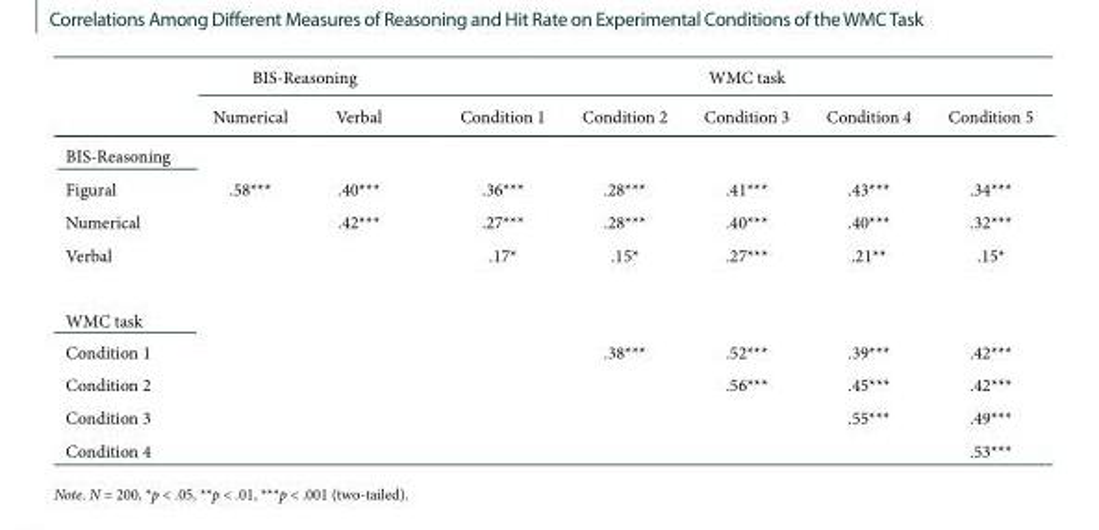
<table><thead><tr><td rowspan="2"></td><td colspan="2">BIS-Reasoning</td><td colspan="5">WMC task</td></tr><tr><td>Numerical</td><td>Verbal</td><td>Condition 1</td><td>Condition 2</td><td>Condition 3</td><td>Condition 4</td><td>Condition 5</td></tr></thead><tbody><tr><td colspan="8">BIS-Reasoning</td></tr><tr><td>Figural</td><td>.58***</td><td>.40***</td><td>.36***</td><td>.28***</td><td>.41***</td><td>.43***</td><td>.34***</td></tr><tr><td>Numerical</td><td></td><td>.42***</td><td>.27***</td><td>.28***</td><td>.40***</td><td>.40***</td><td>.32***</td></tr><tr><td>Verbal</td><td></td><td></td><td>.17*</td><td>.15*</td><td>.27***</td><td>.21**</td><td>.15*</td></tr><tr><td colspan="8">WMC task</td></tr><tr><td>Condition 1</td><td></td><td></td><td></td><td>.38***</td><td>.52***</td><td>.39***</td><td>.42***</td></tr><tr><td>Condition 2</td><td></td><td></td><td></td><td></td><td>.56***</td><td>.45***</td><td>.42***</td></tr><tr><td>Condition 3</td><td></td><td></td><td></td><td></td><td></td><td>.55***</td><td>.49***</td></tr><tr><td>Condition 4</td><td></td><td></td><td></td><td></td><td></td><td></td><td>.53***</td></tr></tbody></table>